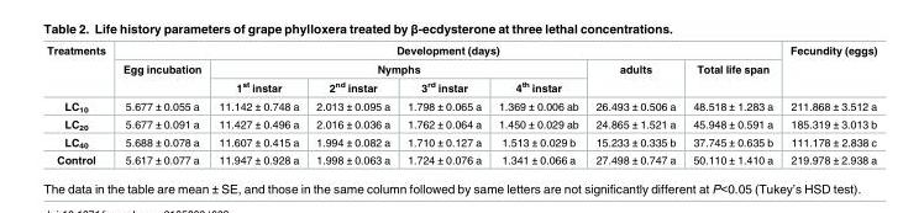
<table><thead><tr><td rowspan="3">Treatments</td><td colspan="7">Development (days)</td><td rowspan="3">Fecundity (eggs)</td></tr><tr><td rowspan="2">Egg incubation</td><td colspan="4">Nymphs</td><td rowspan="2">adults</td><td rowspan="2">Total life span</td></tr><tr><td>1<sup>st</sup> instar</td><td>2<sup>nd</sup> instar</td><td>3<sup>rd</sup> instar</td><td>4<sup>th</sup> instar</td></tr></thead><tbody><tr><td>LC<sub>10</sub></td><td>5.677 ± 0.055 a</td><td>11.142 ± 0.748 a</td><td>2.013 ± 0.095 a</td><td>1.798 ± 0.065 a</td><td>1.369 ± 0.006 ab</td><td>26.493 ± 0.506 a</td><td>48.518 ± 1.283 a</td><td>211.868 ± 3.512 a</td></tr><tr><td>LC<sub>20</sub></td><td>5.677 ± 0.091 a</td><td>11.427 ± 0.496 a</td><td>2.016 ± 0.036 a</td><td>1.762 ± 0.064 a</td><td>1.450 ± 0.029 ab</td><td>24.865 ± 1.521 a</td><td>45.948 ± 0.591 a</td><td>185.319 ± 3.013 b</td></tr><tr><td>LC<sub>40</sub></td><td>5.688 ± 0.078 a</td><td>11.607 ± 0.415 a</td><td>1.994 ± 0.082 a</td><td>1.710 ± 0.127 a</td><td>1.513 ± 0.029 b</td><td>15.233 ± 0.335 b</td><td>37.745 ± 0.635 b</td><td>111.178 ± 2.838 c</td></tr><tr><td>Control</td><td>5.617 ± 0.077 a</td><td>11.947 ± 0.928 a</td><td>1.998 ± 0.063 a</td><td>1.724 ± 0.076 a</td><td>1.341 ± 0.066 a</td><td>27.498 ± 0.747 a</td><td>50.110 ± 1.410 a</td><td>219.978 ± 2.938 a</td></tr></tbody></table>